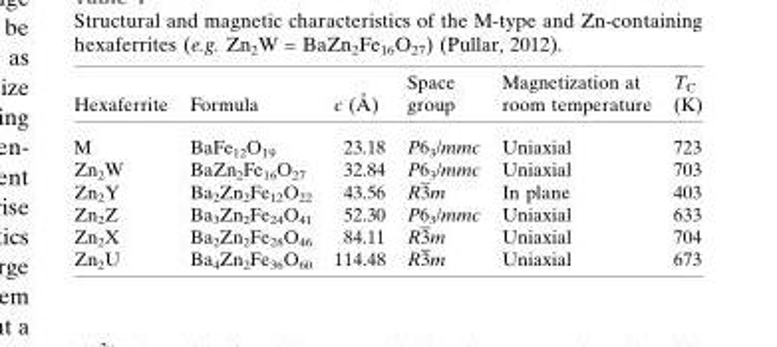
<table><thead><tr><td>Hexaferrite</td><td>Formula</td><td>c (A˚ )</td><td>Space group</td><td>Magnetization at room temperature</td><td>T<sub>C</sub> (K)</td></tr></thead><tbody><tr><td>M</td><td>BaFe<sub>12</sub>O<sub>19</sub></td><td>23.18</td><td>P6<sub>3</sub>/mmc</td><td>Uniaxial</td><td>723</td></tr><tr><td>Zn<sub>2</sub>W</td><td>BaZn<sub>2</sub>Fe<sub>16</sub>O<sub>27</sub></td><td>32.84</td><td>P6<sub>3</sub>/mmc</td><td>Uniaxial</td><td>703</td></tr><tr><td>Zn<sub>2</sub>Y</td><td>Ba<sub>2</sub>Zn<sub>2</sub>Fe<sub>12</sub>O<sub>22</sub></td><td>43.56</td><td>R3m</td><td>In plane</td><td>403</td></tr><tr><td>Zn<sub>2</sub>Z</td><td>Ba<sub>3</sub>Zn<sub>2</sub>Fe<sub>24</sub>O<sub>41</sub></td><td>52.30</td><td>P6<sub>3</sub>/mmc</td><td>Uniaxial</td><td>633</td></tr><tr><td>Zn<sub>2</sub>X</td><td>Ba<sub>2</sub>Zn<sub>2</sub>Fe<sub>28</sub>O<sub>46</sub></td><td>84.11</td><td>R3m</td><td>Uniaxial</td><td>704</td></tr><tr><td>Zn<sub>2</sub>U</td><td>Ba<sub>4</sub>Zn<sub>2</sub>Fe<sub>36</sub>O<sub>60</sub></td><td>114.48</td><td>R3m</td><td>Uniaxial</td><td>673</td></tr></tbody></table>